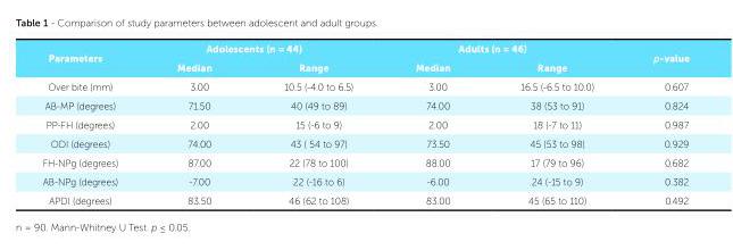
<table><tbody><tr><td rowspan="2">Parameters</td><td colspan="2">Adolescents (n = 44)</td><td colspan="2">Adults (n = 46)</td><td rowspan="2">p-value</td></tr><tr><td>Median</td><td>Range</td><td>Median</td><td>Range</td></tr><tr><td>Over bite (mm)</td><td>3.00</td><td>10.5 (-4.0 to 6.5)</td><td>3.00</td><td>16.5 (-6.5 to 10.0)</td><td>0.607</td></tr><tr><td>AB-MP (degrees)</td><td>71.50</td><td>40 (49 to 89)</td><td>74.00</td><td>38 (53 to 91)</td><td>0.824</td></tr><tr><td>PP-FH (degrees)</td><td>2.00</td><td>15 (-6 to 9)</td><td>2.00</td><td>18 (-7 to 11)</td><td>0.987</td></tr><tr><td>ODI (degrees)</td><td>74.00</td><td>43 ( 54 to 97)</td><td>73.50</td><td>45 (53 to 98)</td><td>0.929</td></tr><tr><td>FH-NPg (degrees)</td><td>87.00</td><td>22 (78 to 100)</td><td>88.00</td><td>17 (79 to 96)</td><td>0.682</td></tr><tr><td>AB-NPg (degrees)</td><td>-7.00</td><td>22 (-16 to 6)</td><td>-6.00</td><td>24 (-15 to 9)</td><td>0.382</td></tr><tr><td>APDI (degrees)</td><td>83.50</td><td>46 (62 to 108)</td><td>83.00</td><td>45 (65 to 110)</td><td>0.492</td></tr></tbody></table>